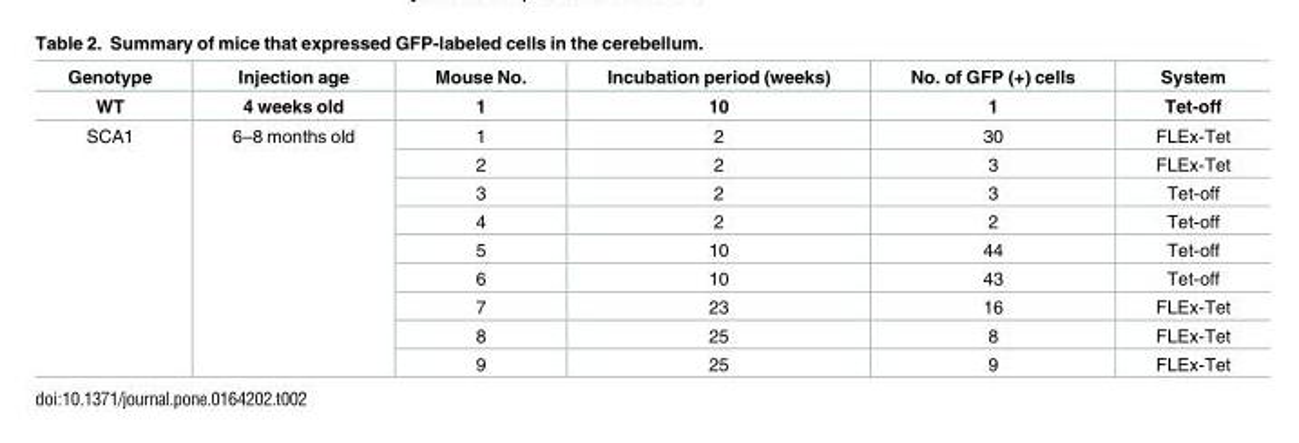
<table><thead><tr><td rowspan="2">Genotype WT</td><td rowspan="2">Injection age 4 weeks old</td><td rowspan="2">Mouse No. 1</td><td rowspan="2">Incubation period (weeks) 10</td><td rowspan="2">No. of GFP (+) cells 1</td><td rowspan="2">System Tet-off</td></tr><tr></tr></thead><tbody><tr><td rowspan="9">SCA1</td><td rowspan="9">6–8 months old</td><td>1</td><td>2</td><td>30</td><td>FLEx-Tet</td></tr><tr><td>2</td><td>2</td><td>3</td><td>FLEx-Tet</td></tr><tr><td>3</td><td>2</td><td>3</td><td>Tet-off</td></tr><tr><td>4</td><td>2</td><td>2</td><td>Tet-off</td></tr><tr><td>5</td><td>10</td><td>44</td><td>Tet-off</td></tr><tr><td>6</td><td>10</td><td>43</td><td>Tet-off</td></tr><tr><td>7</td><td>23</td><td>16</td><td>FLEx-Tet</td></tr><tr><td>8</td><td>25</td><td>8</td><td>FLEx-Tet</td></tr><tr><td>9</td><td>25</td><td>9</td><td>FLEx-Tet</td></tr></tbody></table>